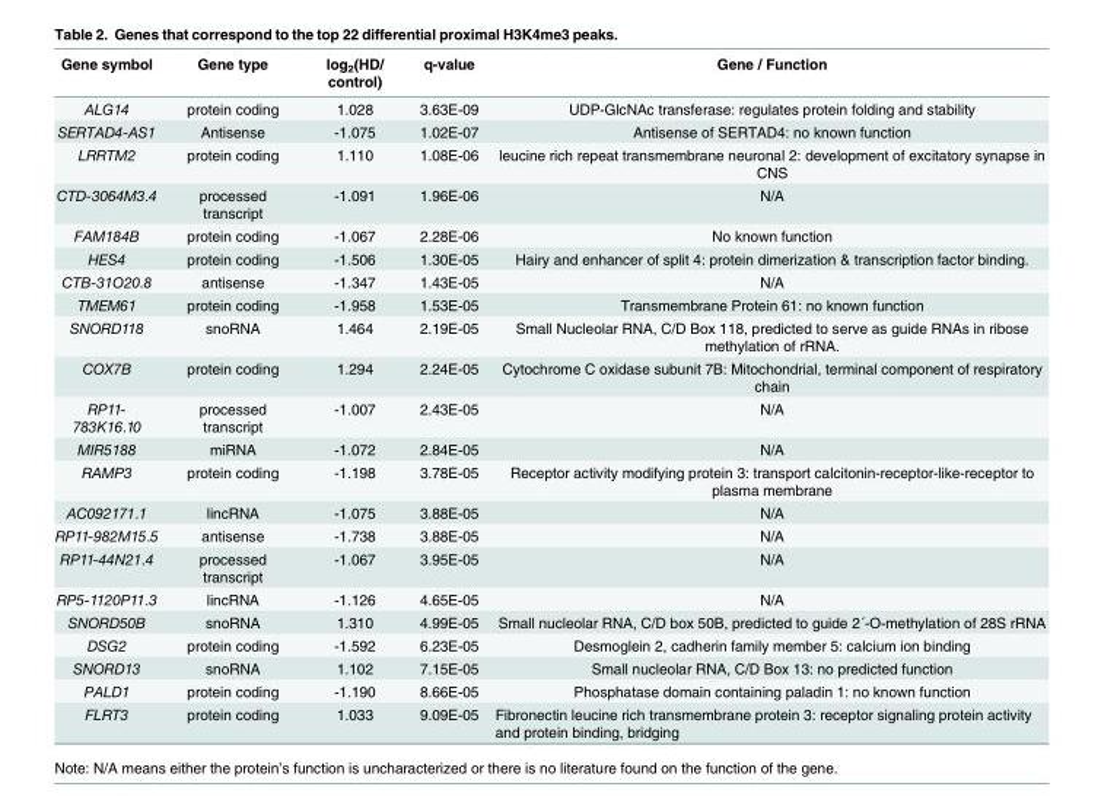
<table><thead><tr><td>Gene symbol</td><td>Gene type</td><td>log<sub>2</sub>(HD/ control)</td><td>q-value</td><td>Gene / Function</td></tr></thead><tbody><tr><td>ALG14</td><td>protein coding</td><td>1.028</td><td>3.63E-09</td><td>UDP-GlcNAc transferase: regulates protein folding and stability</td></tr><tr><td>SERTAD4-AS1</td><td>Antisense</td><td>-1.075</td><td>1.02E-07</td><td>Antisense of SERTAD4: no known function</td></tr><tr><td>LRRTM2</td><td>protein coding</td><td>1.110</td><td>1.08E-06</td><td>leucine rich repeat transmembrane neuronal 2: development of excitatory synapse in CNS</td></tr><tr><td>CTD-3064M3.4</td><td>processed transcript</td><td>-1.091</td><td>1.96E-06</td><td>N/A</td></tr><tr><td>FAM184B</td><td>protein coding</td><td>-1.067</td><td>2.28E-06</td><td>No known function</td></tr><tr><td>HES4</td><td>protein coding</td><td>-1.506</td><td>1.30E-05</td><td>Hairy and enhancer of split 4: protein dimerization &amp; transcription factor binding.</td></tr><tr><td>CTB-31O20.8</td><td>antisense</td><td>-1.347</td><td>1.43E-05</td><td>N/A</td></tr><tr><td>TMEM61</td><td>protein coding</td><td>-1.958</td><td>1.53E-05</td><td>Transmembrane Protein 61: no known function</td></tr><tr><td>SNORD118</td><td>snoRNA</td><td>1.464</td><td>2.19E-05</td><td>Small Nucleolar RNA, C/D Box 118, predicted to serve as guide RNAs in ribose methylation of rRNA.</td></tr><tr><td>COX7B</td><td>protein coding</td><td>1.294</td><td>2.24E-05</td><td>Cytochrome C oxidase subunit 7B: Mitochondrial, terminal component of respiratory chain</td></tr><tr><td>RP11- 783K16.10</td><td>processed transcript</td><td>-1.007</td><td>2.43E-05</td><td>N/A</td></tr><tr><td>MIR5188</td><td>miRNA</td><td>-1.072</td><td>2.84E-05</td><td>N/A</td></tr><tr><td>RAMP3</td><td>protein coding</td><td>-1.198</td><td>3.78E-05</td><td>Receptor activity modifying protein 3: transport calcitonin-receptor-like-receptor to plasma membrane</td></tr><tr><td>AC092171.1</td><td>lincRNA</td><td>-1.075</td><td>3.88E-05</td><td>N/A</td></tr><tr><td>RP11-982M15.5</td><td>antisense</td><td>-1.738</td><td>3.88E-05</td><td>N/A</td></tr><tr><td>RP11-44N21.4</td><td>processed transcript</td><td>-1.067</td><td>3.95E-05</td><td>N/A</td></tr><tr><td>RP5-1120P11.3</td><td>lincRNA</td><td>-1.126</td><td>4.65E-05</td><td>N/A</td></tr><tr><td>SNORD50B</td><td>snoRNA</td><td>1.310</td><td>4.99E-05</td><td>Small nucleolar RNA, C/D box 50B, predicted to guide 2´-O-methylation of 28S rRNA</td></tr><tr><td>DSG2</td><td>protein coding</td><td>-1.592</td><td>6.23E-05</td><td>Desmoglein 2, cadherin family member 5: calcium ion binding</td></tr><tr><td>SNORD13</td><td>snoRNA</td><td>1.102</td><td>7.15E-05</td><td>Small nucleolar RNA, C/D Box 13: no predicted function</td></tr><tr><td>PALD1</td><td>protein coding</td><td>-1.190</td><td>8.66E-05</td><td>Phosphatase domain containing paladin 1: no known function</td></tr><tr><td>FLRT3</td><td>protein coding</td><td>1.033</td><td>9.09E-05</td><td>Fibronectin leucine rich transmembrane protein 3: receptor signaling protein activity and protein binding, bridging</td></tr></tbody></table>